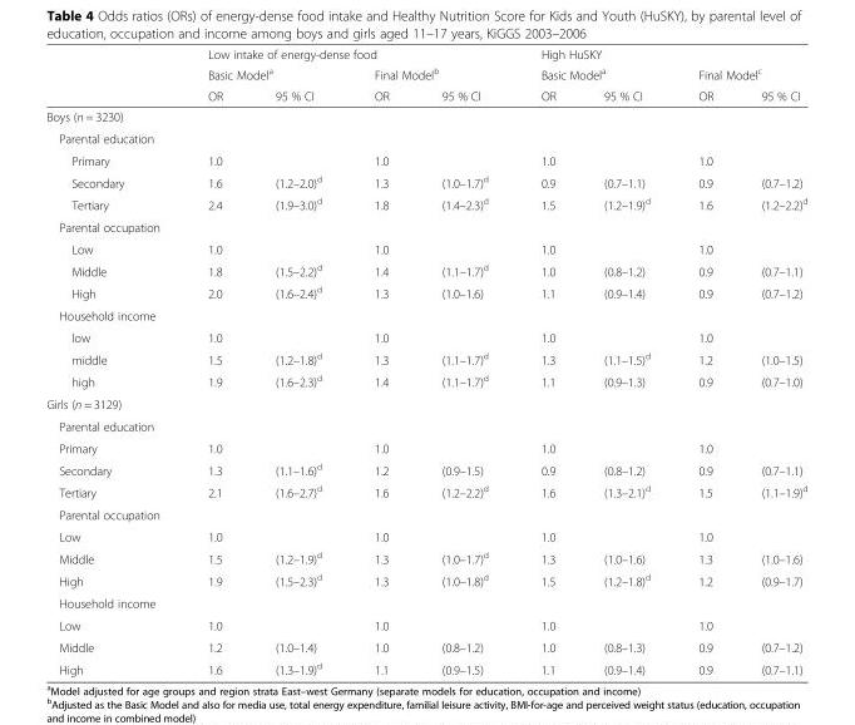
<table><thead><tr><td rowspan="3"></td><td colspan="4">Low intake of energy-dense food</td><td colspan="4">High HuSKY</td></tr><tr><td colspan="2">Basic Model<sup>a</sup></td><td colspan="2">Final Model<sup>b</sup></td><td colspan="2">Basic Model<sup>a</sup></td><td colspan="2">Final Model<sup>c</sup></td></tr><tr><td>OR</td><td>95 % CI</td><td>OR</td><td>95 % CI</td><td>OR</td><td>95 % CI</td><td>OR</td><td>95 % CI</td></tr></thead><tbody><tr><td colspan="9">Boys (n = 3230)</td></tr><tr><td colspan="9">Parental education</td></tr><tr><td>Primary</td><td>1.0</td><td></td><td>1.0</td><td></td><td>1.0</td><td></td><td>1.0</td><td></td></tr><tr><td>Secondary</td><td>1.6</td><td>(1.2–2.0)<sup>d</sup></td><td>1.3</td><td>(1.0–1.7)<sup>d</sup></td><td>0.9</td><td>(0.7–1.1)</td><td>0.9</td><td>(0.7–1.2)</td></tr><tr><td>Tertiary</td><td>2.4</td><td>(1.9–3.0)<sup>d</sup></td><td>1.8</td><td>(1.4–2.3)<sup>d</sup></td><td>1.5</td><td>(1.2–1.9)<sup>d</sup></td><td>1.6</td><td>(1.2–2.2)<sup>d</sup></td></tr><tr><td colspan="9">Parental occupation</td></tr><tr><td>Low</td><td>1.0</td><td></td><td>1.0</td><td></td><td>1.0</td><td></td><td>1.0</td><td></td></tr><tr><td>Middle</td><td>1.8</td><td>(1.5–2.2)<sup>d</sup></td><td>1.4</td><td>(1.1–1.7)<sup>d</sup></td><td>1.0</td><td>(0.8–1.2)</td><td>0.9</td><td>(0.7–1.1)</td></tr><tr><td>High</td><td>2.0</td><td>(1.6–2.4)<sup>d</sup></td><td>1.3</td><td>(1.0–1.6)</td><td>1.1</td><td>(0.9–1.4)</td><td>0.9</td><td>(0.7–1.2)</td></tr><tr><td colspan="9">Household income</td></tr><tr><td>low</td><td>1.0</td><td></td><td>1.0</td><td></td><td>1.0</td><td></td><td>1.0</td><td></td></tr><tr><td>middle</td><td>1.5</td><td>(1.2–1.8)<sup>d</sup></td><td>1.3</td><td>(1.1–1.7)<sup>d</sup></td><td>1.3</td><td>(1.1–1.5)<sup>d</sup></td><td>1.2</td><td>(1.0–1.5)</td></tr><tr><td>high</td><td>1.9</td><td>(1.6–2.3)<sup>d</sup></td><td>1.4</td><td>(1.1–1.7)<sup>d</sup></td><td>1.1</td><td>(0.9–1.3)</td><td>0.9</td><td>(0.7–1.0)</td></tr><tr><td colspan="9">Girls (n = 3129)</td></tr><tr><td colspan="9">Parental education</td></tr><tr><td>Primary</td><td>1.0</td><td></td><td>1.0</td><td></td><td>1.0</td><td></td><td>1.0</td><td></td></tr><tr><td>Secondary</td><td>1.3</td><td>(1.1–1.6)<sup>d</sup></td><td>1.2</td><td>(0.9–1.5)</td><td>0.9</td><td>(0.8–1.2)</td><td>0.9</td><td>(0.7–1.1)</td></tr><tr><td>Tertiary</td><td>2.1</td><td>(1.6–2.7)<sup>d</sup></td><td>1.6</td><td>(1.2–2.2)<sup>d</sup></td><td>1.6</td><td>(1.3–2.1)<sup>d</sup></td><td>1.5</td><td>(1.1–1.9)<sup>d</sup></td></tr><tr><td colspan="9">Parental occupation</td></tr><tr><td>Low</td><td>1.0</td><td></td><td>1.0</td><td></td><td>1.0</td><td></td><td>1.0</td><td></td></tr><tr><td>Middle</td><td>1.5</td><td>(1.2–1.9)<sup>d</sup></td><td>1.3</td><td>(1.0–1.7)<sup>d</sup></td><td>1.3</td><td>(1.0–1.6)</td><td>1.3</td><td>(1.0–1.6)</td></tr><tr><td>High</td><td>1.9</td><td>(1.5–2.3)<sup>d</sup></td><td>1.3</td><td>(1.0–1.8)<sup>d</sup></td><td>1.5</td><td>(1.2–1.8)<sup>d</sup></td><td>1.2</td><td>(0.9–1.7)</td></tr><tr><td colspan="9">Household income</td></tr><tr><td>Low</td><td>1.0</td><td></td><td>1.0</td><td></td><td>1.0</td><td></td><td>1.0</td><td></td></tr><tr><td>Middle</td><td>1.2</td><td>(1.0–1.4)</td><td>1.0</td><td>(0.8–1.2)</td><td>1.0</td><td>(0.8–1.3)</td><td>0.9</td><td>(0.7–1.2)</td></tr><tr><td>High</td><td>1.6</td><td>(1.3–1.9)<sup>d</sup></td><td>1.1</td><td>(0.9–1.5)</td><td>1.1</td><td>(0.9–1.4)</td><td>0.9</td><td>(0.7–1.1)</td></tr></tbody></table>